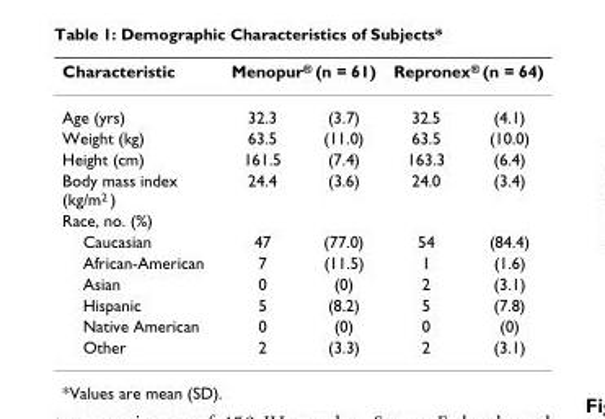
<table><thead><tr><td rowspan="2">Characteristic Age (yrs)</td><td colspan="2">Menopur<sup>®</sup> (n = 61)</td><td colspan="2">Repronex<sup>®</sup> (n = 64)</td></tr><tr><td>32.3</td><td>(3.7)</td><td>32.5</td><td>(4.1)</td></tr></thead><tbody><tr><td>Weight (kg)</td><td>63.5</td><td>(11.0)</td><td>63.5</td><td>(10.0)</td></tr><tr><td>Height (cm)</td><td>161.5</td><td>(7.4)</td><td>163.3</td><td>(6.4)</td></tr><tr><td>Body mass index (kg/m<sup>2</sup> )</td><td>24.4</td><td>(3.6)</td><td>24.0</td><td>(3.4)</td></tr><tr><td colspan="5">Race, no. (%)</td></tr><tr><td>Caucasian</td><td>47</td><td>(77.0)</td><td>54</td><td>(84.4)</td></tr><tr><td>African-American</td><td>7</td><td>(11.5)</td><td>1</td><td>(1.6)</td></tr><tr><td>Asian</td><td>0</td><td>(0)</td><td>2</td><td>(3.1)</td></tr><tr><td>Hispanic</td><td>5</td><td>(8.2)</td><td>5</td><td>(7.8)</td></tr><tr><td>Native American</td><td>0</td><td>(0)</td><td>0</td><td>(0)</td></tr><tr><td>Other</td><td>2</td><td>(3.3)</td><td>2</td><td>(3.1)</td></tr></tbody></table>